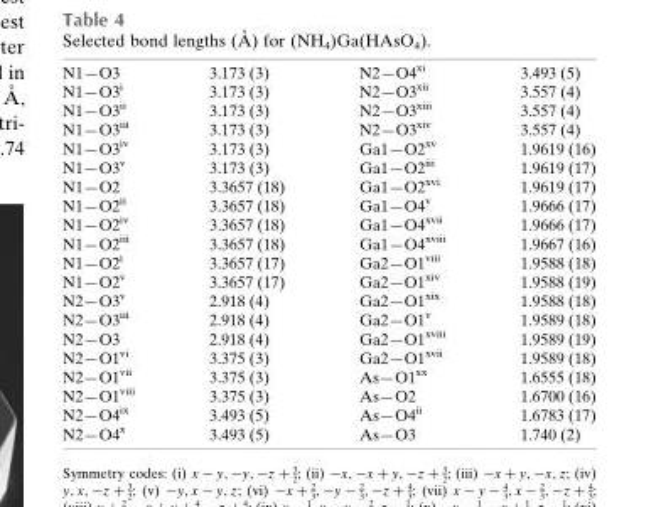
<table><tbody><tr><td>N1—O3</td><td>3.173 (3)</td><td>N2—O4<sup>xi</sup></td><td>3.493 (5)</td></tr><tr><td>N1—O3<sup>i</sup></td><td>3.173 (3)</td><td>N2—O3<sup>xii</sup></td><td>3.557 (4)</td></tr><tr><td>N1—O3<sup>ii</sup></td><td>3.173 (3)</td><td>N2—O3<sup>xiii</sup></td><td>3.557 (4)</td></tr><tr><td>N1—O3<sup>iii</sup></td><td>3.173 (3)</td><td>N2—O3<sup>xiv</sup></td><td>3.557 (4)</td></tr><tr><td>N1—O3<sup>iv</sup></td><td>3.173 (3)</td><td>Ga1—O2<sup>xv</sup></td><td>1.9619 (16)</td></tr><tr><td>N1—O3<sup>v</sup></td><td>3.173 (3)</td><td>Ga1—O2<sup>iii</sup></td><td>1.9619 (17)</td></tr><tr><td>N1—O2</td><td>3.3657 (18)</td><td>Ga1—O2<sup>xvi</sup></td><td>1.9619 (17)</td></tr><tr><td>N1—O2<sup>ii</sup></td><td>3.3657 (18)</td><td>Ga1—O4<sup>v</sup></td><td>1.9666 (17)</td></tr><tr><td>N1—O2<sup>iv</sup></td><td>3.3657 (18)</td><td>Ga1—O4<sup>xvii</sup></td><td>1.9666 (17)</td></tr><tr><td>N1—O2<sup>iii</sup></td><td>3.3657 (18)</td><td>Ga1—O4<sup>xviii</sup></td><td>1.9667 (16)</td></tr><tr><td>N1—O2<sup>i</sup></td><td>3.3657 (17)</td><td>Ga2—O1<sup>viii</sup></td><td>1.9588 (18)</td></tr><tr><td>N1—O2<sup>v</sup></td><td>3.3657 (17)</td><td>Ga2—O1<sup>xiv</sup></td><td>1.9588 (19)</td></tr><tr><td>N2—O3<sup>v</sup></td><td>2.918 (4)</td><td>Ga2—O1<sup>xix</sup></td><td>1.9588 (18)</td></tr><tr><td>N2—O3<sup>iii</sup></td><td>2.918 (4)</td><td>Ga2—O1<sup>v</sup></td><td>1.9589 (18)</td></tr><tr><td>N2—O3</td><td>2.918 (4)</td><td>Ga2—O1<sup>xviii</sup></td><td>1.9589 (19)</td></tr><tr><td>N2—O1<sup>vi</sup></td><td>3.375 (3)</td><td>Ga2—O1<sup>xvii</sup></td><td>1.9589 (18)</td></tr><tr><td>N2—O1<sup>vii</sup></td><td>3.375 (3)</td><td>As—O1<sup>xx</sup></td><td>1.6555 (18)</td></tr><tr><td>N2—O1<sup>viii</sup></td><td>3.375 (3)</td><td>As—O2</td><td>1.6700 (16)</td></tr><tr><td>N2—O4<sup>ix</sup></td><td>3.493 (5)</td><td>As—O4<sup>ii</sup></td><td>1.6783 (17)</td></tr><tr><td>N2—O4<sup>x</sup></td><td>3.493 (5)</td><td>As—O3</td><td>1.740 (2)</td></tr></tbody></table>